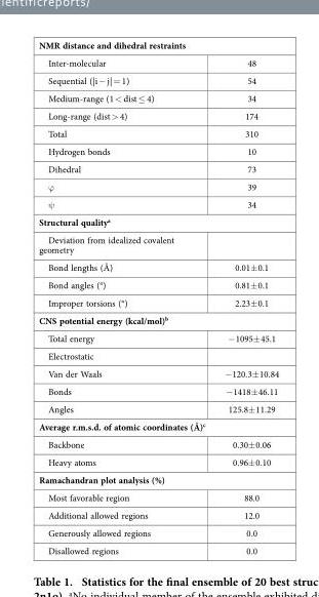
<table><tbody><tr><td colspan="2">NMR distance and dihedral restraints</td></tr><tr><td>Inter-molecular</td><td>48</td></tr><tr><td>Sequential (|i − j| = 1)</td><td>54</td></tr><tr><td>Medium-range (1 &lt; dist ≤ 4)</td><td>34</td></tr><tr><td>Long-range (dist &gt; 4)</td><td>174</td></tr><tr><td>Total</td><td>310</td></tr><tr><td>Hydrogen bonds</td><td>10</td></tr><tr><td>Dihedral</td><td>73</td></tr><tr><td>ϕ</td><td>39</td></tr><tr><td>ψ</td><td>34</td></tr><tr><td colspan="2">Structural quality<sup>a</sup></td></tr><tr><td colspan="2">Deviation from idealized covalent geometry</td></tr><tr><td>Bond lengths (Å)</td><td>0.01± 0.1</td></tr><tr><td>Bond angles (°)</td><td>0.81± 0.1</td></tr><tr><td>Improper torsions (°)</td><td>2.23± 0.1</td></tr><tr><td colspan="2">CNS potential energy (kcal/mol)<sup>b</sup></td></tr><tr><td>Total energy</td><td>− 1095± 45.1</td></tr><tr><td colspan="2">Electrostatic</td></tr><tr><td>Van der Waals</td><td>− 120.3± 10.84</td></tr><tr><td>Bonds</td><td>− 1418± 46.11</td></tr><tr><td>Angles</td><td>125.8± 11.29</td></tr><tr><td colspan="2">Average r.m.s.d. of atomic coordinates (Å)<sup>c</sup></td></tr><tr><td>Backbone</td><td>0.30± 0.06</td></tr><tr><td>Heavy atoms</td><td>0.96± 0.10</td></tr><tr><td colspan="2">Ramachandran plot analysis (%)</td></tr><tr><td>Most favorable region</td><td>88.0</td></tr><tr><td>Additional allowed regions</td><td>12.0</td></tr><tr><td>Generously allowed regions</td><td>0.0</td></tr><tr><td>Disallowed regions</td><td>0.0</td></tr></tbody></table>